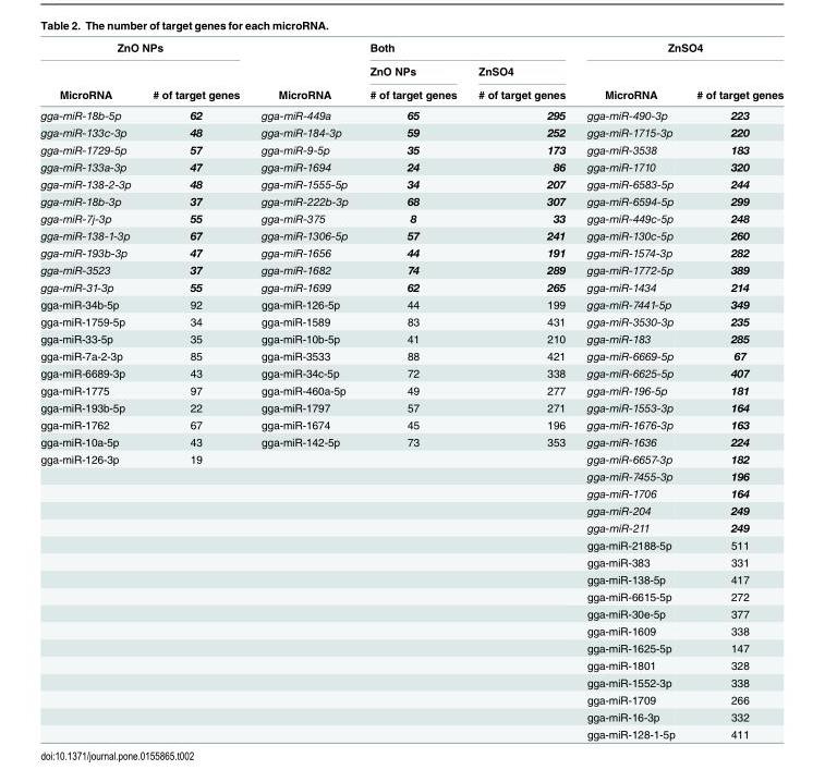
<table><thead><tr><td colspan="2">ZnO NPs</td><td rowspan="3">MicroRNA</td><td colspan="2">Both</td><td colspan="2">ZnSO4</td></tr><tr><td rowspan="2">MicroRNA</td><td rowspan="2"># of target genes</td><td rowspan="2">ZnO NPs # of target genes</td><td rowspan="2">ZnSO4 # of target genes</td><td rowspan="2">MicroRNA</td><td rowspan="2"># of target genes</td></tr><tr></tr></thead><tbody><tr><td>gga-miR-18b-5p</td><td>62</td><td>gga-miR-449a</td><td>65</td><td>295</td><td>gga-miR-490-3p</td><td>223</td></tr><tr><td>gga-miR-133c-3p</td><td>48</td><td>gga-miR-184-3p</td><td>59</td><td>252</td><td>gga-miR-1715-3p</td><td>220</td></tr><tr><td>gga-miR-1729-5p</td><td>57</td><td>gga-miR-9-5p</td><td>35</td><td>173</td><td>gga-miR-3538</td><td>183</td></tr><tr><td>gga-miR-133a-3p</td><td>47</td><td>gga-miR-1694</td><td>24</td><td>86</td><td>gga-miR-1710</td><td>320</td></tr><tr><td>gga-miR-138-2-3p</td><td>48</td><td>gga-miR-1555-5p</td><td>34</td><td>207</td><td>gga-miR-6583-5p</td><td>244</td></tr><tr><td>gga-miR-18b-3p</td><td>37</td><td>gga-miR-222b-3p</td><td>68</td><td>307</td><td>gga-miR-6594-5p</td><td>299</td></tr><tr><td>gga-miR-7j-3p</td><td>55</td><td>gga-miR-375</td><td>8</td><td>33</td><td>gga-miR-449c-5p</td><td>248</td></tr><tr><td>gga-miR-138-1-3p</td><td>67</td><td>gga-miR-1306-5p</td><td>57</td><td>241</td><td>gga-miR-130c-5p</td><td>260</td></tr><tr><td>gga-miR-193b-3p</td><td>47</td><td>gga-miR-1656</td><td>44</td><td>191</td><td>gga-miR-1574-3p</td><td>282</td></tr><tr><td>gga-miR-3523</td><td>37</td><td>gga-miR-1682</td><td>74</td><td>289</td><td>gga-miR-1772-5p</td><td>389</td></tr><tr><td>gga-miR-31-3p</td><td>55</td><td>gga-miR-1699</td><td>62</td><td>265</td><td>gga-miR-1434</td><td>214</td></tr><tr><td>gga-miR-34b-5p</td><td>92</td><td>gga-miR-126-5p</td><td>44</td><td>199</td><td>gga-miR-7441-5p</td><td>349</td></tr><tr><td>gga-miR-1759-5p</td><td>34</td><td>gga-miR-1589</td><td>83</td><td>431</td><td>gga-miR-3530-3p</td><td>235</td></tr><tr><td>gga-miR-33-5p</td><td>35</td><td>gga-miR-10b-5p</td><td>41</td><td>210</td><td>gga-miR-183</td><td>285</td></tr><tr><td>gga-miR-7a-2-3p</td><td>85</td><td>gga-miR-3533</td><td>88</td><td>421</td><td>gga-miR-6669-5p</td><td>67</td></tr><tr><td>gga-miR-6689-3p</td><td>43</td><td>gga-miR-34c-5p</td><td>72</td><td>338</td><td>gga-miR-6625-5p</td><td>407</td></tr><tr><td>gga-miR-1775</td><td>97</td><td>gga-miR-460a-5p</td><td>49</td><td>277</td><td>gga-miR-196-5p</td><td>181</td></tr><tr><td>gga-miR-193b-5p</td><td>22</td><td>gga-miR-1797</td><td>57</td><td>271</td><td>gga-miR-1553-3p</td><td>164</td></tr><tr><td>gga-miR-1762</td><td>67</td><td>gga-miR-1674</td><td>45</td><td>196</td><td>gga-miR-1676-3p</td><td>163</td></tr><tr><td>gga-miR-10a-5p</td><td>43</td><td>gga-miR-142-5p</td><td>73</td><td>353</td><td>gga-miR-1636</td><td>224</td></tr><tr><td rowspan="17">gga-miR-126-3p</td><td>19</td><td></td><td></td><td></td><td>gga-miR-6657-3p</td><td>182</td></tr><tr><td></td><td></td><td></td><td></td><td>gga-miR-7455-3p</td><td>196</td></tr><tr><td></td><td></td><td></td><td></td><td>gga-miR-1706</td><td>164</td></tr><tr><td></td><td></td><td></td><td></td><td>gga-miR-204</td><td>249</td></tr><tr><td></td><td></td><td></td><td></td><td>gga-miR-211</td><td>249</td></tr><tr><td></td><td></td><td></td><td></td><td>gga-miR-2188-5p</td><td>511</td></tr><tr><td></td><td></td><td></td><td></td><td>gga-miR-383</td><td>331</td></tr><tr><td></td><td></td><td></td><td></td><td>gga-miR-138-5p</td><td>417</td></tr><tr><td></td><td></td><td></td><td></td><td>gga-miR-6615-5p</td><td>272</td></tr><tr><td></td><td></td><td></td><td></td><td>gga-miR-30e-5p</td><td>377</td></tr><tr><td></td><td></td><td></td><td></td><td>gga-miR-1609</td><td>338</td></tr><tr><td></td><td></td><td></td><td></td><td>gga-miR-1625-5p</td><td>147</td></tr><tr><td></td><td></td><td></td><td></td><td>gga-miR-1801</td><td>328</td></tr><tr><td></td><td></td><td></td><td></td><td>gga-miR-1552-3p</td><td>338</td></tr><tr><td></td><td></td><td></td><td></td><td>gga-miR-1709</td><td>266</td></tr><tr><td></td><td></td><td></td><td></td><td>gga-miR-16-3p</td><td>332</td></tr><tr><td></td><td></td><td></td><td></td><td>gga-miR-128-1-5p</td><td>411</td></tr></tbody></table>